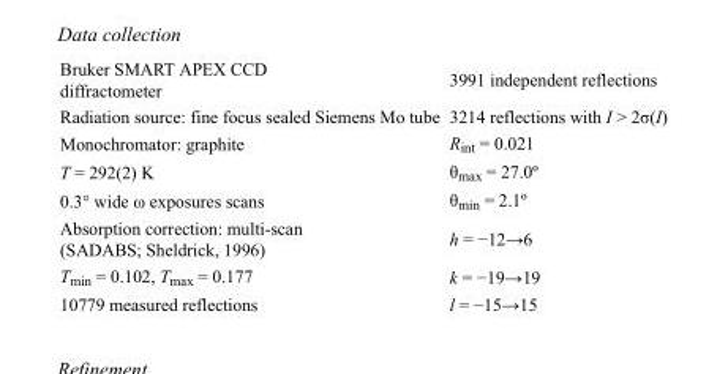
<table><tbody><tr><td>Bruker SMART APEX CCD diffractometer</td><td>3991 independent reflections</td></tr><tr><td>Radiation source: fine focus sealed Siemens Mo tube</td><td>3214 reflections with I &gt; 2σ(I)</td></tr><tr><td>Monochromator: graphite</td><td>R<sub>int</sub> = 0.021</td></tr><tr><td>T = 292(2) K</td><td>θ<sub>max</sub> = 27.0º</td></tr><tr><td>0.3° wide ω exposures scans</td><td>θ<sub>min</sub> = 2.1º</td></tr><tr><td>Absorption correction: multi-scan (SADABS; Sheldrick, 1996)</td><td>h = −12→6</td></tr><tr><td>T<sub>min</sub> = 0.102, T<sub>max</sub> = 0.177</td><td>k = −19→19</td></tr><tr><td>10779 measured reflections</td><td>l = −15→15</td></tr></tbody></table>